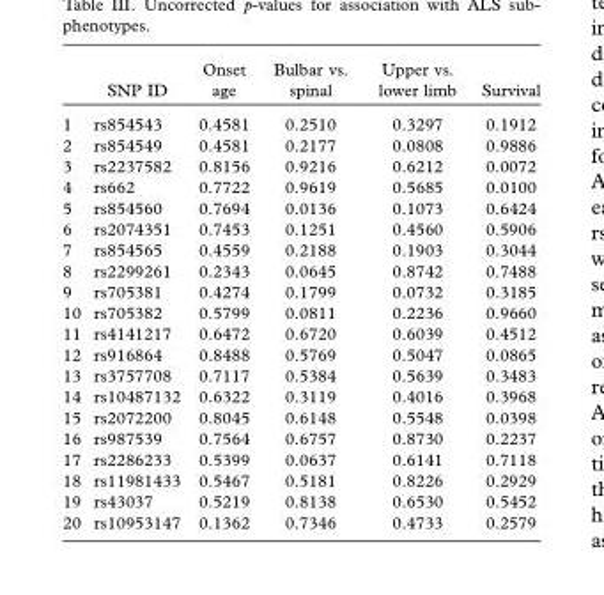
<table><thead><tr><td></td><td>SNP ID</td><td>Onset age</td><td>Bulbar vs. spinal</td><td>Upper vs. lower limb</td><td>Survival</td></tr></thead><tbody><tr><td>1</td><td>rs854543</td><td>0.4581</td><td>0.2510</td><td>0.3297</td><td>0.1912</td></tr><tr><td>2</td><td>rs854549</td><td>0.4581</td><td>0.2177</td><td>0.0808</td><td>0.9886</td></tr><tr><td>3</td><td>rs2237582</td><td>0.8156</td><td>0.9216</td><td>0.6212</td><td>0.0072</td></tr><tr><td>4</td><td>rs662</td><td>0.7722</td><td>0.9619</td><td>0.5685</td><td>0.0100</td></tr><tr><td>5</td><td>rs854560</td><td>0.7694</td><td>0.0136</td><td>0.1073</td><td>0.6424</td></tr><tr><td>6</td><td>rs2074351</td><td>0.7453</td><td>0.1251</td><td>0.4560</td><td>0.5906</td></tr><tr><td>7</td><td>rs854565</td><td>0.4559</td><td>0.2188</td><td>0.1903</td><td>0.3044</td></tr><tr><td>8</td><td>rs2299261</td><td>0.2343</td><td>0.0645</td><td>0.8742</td><td>0.7488</td></tr><tr><td>9</td><td>rs705381</td><td>0.4274</td><td>0.1799</td><td>0.0732</td><td>0.3185</td></tr><tr><td>10</td><td>rs705382</td><td>0.5799</td><td>0.0811</td><td>0.2236</td><td>0.9660</td></tr><tr><td>11</td><td>rs4141217</td><td>0.6472</td><td>0.6720</td><td>0.6039</td><td>0.4512</td></tr><tr><td>12</td><td>rs916864</td><td>0.8488</td><td>0.5769</td><td>0.5047</td><td>0.0865</td></tr><tr><td>13</td><td>rs3757708</td><td>0.7117</td><td>0.5384</td><td>0.5639</td><td>0.3483</td></tr><tr><td>14</td><td>rs10487132</td><td>0.6322</td><td>0.3119</td><td>0.4016</td><td>0.3968</td></tr><tr><td>15</td><td>rs2072200</td><td>0.8045</td><td>0.6148</td><td>0.5548</td><td>0.0398</td></tr><tr><td>16</td><td>rs987539</td><td>0.7564</td><td>0.6757</td><td>0.8730</td><td>0.2237</td></tr><tr><td>17</td><td>rs2286233</td><td>0.5399</td><td>0.0637</td><td>0.6141</td><td>0.7118</td></tr><tr><td>18</td><td>rs11981433</td><td>0.5467</td><td>0.5181</td><td>0.8226</td><td>0.2929</td></tr><tr><td>19</td><td>rs43037</td><td>0.5219</td><td>0.8138</td><td>0.6530</td><td>0.5452</td></tr><tr><td>20</td><td>rs10953147</td><td>0.1362</td><td>0.7346</td><td>0.4733</td><td>0.2579</td></tr></tbody></table>